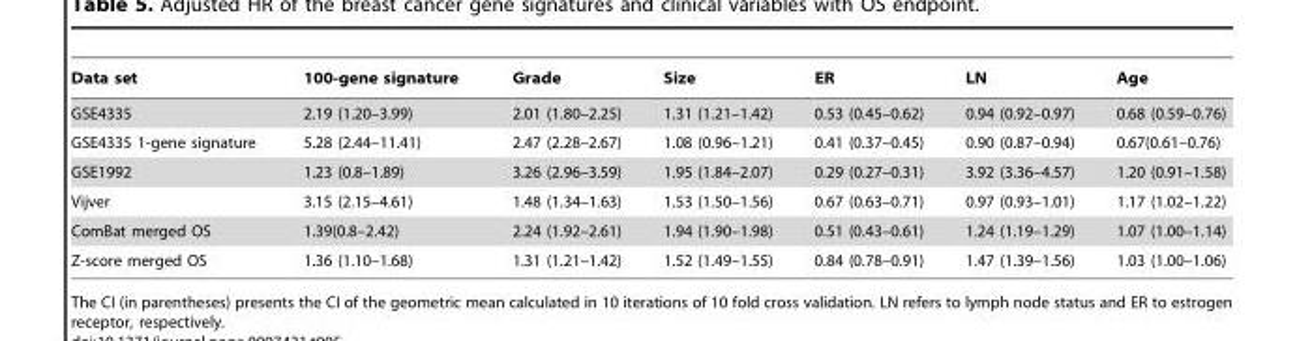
<table><thead><tr><td>Data set</td><td>100-gene signature</td><td>Grade</td><td>Size</td><td>ER</td><td>LN</td><td>Age</td></tr></thead><tbody><tr><td>GSE4335</td><td>2.19 (1.20–3.99)</td><td>2.01 (1.80–2.25)</td><td>1.31 (1.21–1.42)</td><td>0.53 (0.45–0.62)</td><td>0.94 (0.92–0.97)</td><td>0.68 (0.59–0.76)</td></tr><tr><td>GSE4335 1-gene signature</td><td>5.28 (2.44–11.41)</td><td>2.47 (2.28–2.67)</td><td>1.08 (0.96–1.21)</td><td>0.41 (0.37–0.45)</td><td>0.90 (0.87–0.94)</td><td>0.67(0.61–0.76)</td></tr><tr><td>GSE1992</td><td>1.23 (0.8–1.89)</td><td>3.26 (2.96–3.59)</td><td>1.95 (1.84–2.07)</td><td>0.29 (0.27–0.31)</td><td>3.92 (3.36–4.57)</td><td>1.20 (0.91–1.58)</td></tr><tr><td>Vijver</td><td>3.15 (2.15–4.61)</td><td>1.48 (1.34–1.63)</td><td>1.53 (1.50–1.56)</td><td>0.67 (0.63–0.71)</td><td>0.97 (0.93–1.01)</td><td>1.17 (1.02–1.22)</td></tr><tr><td>ComBat merged OS</td><td>1.39(0.8–2.42)</td><td>2.24 (1.92–2.61)</td><td>1.94 (1.90–1.98)</td><td>0.51 (0.43–0.61)</td><td>1.24 (1.19–1.29)</td><td>1.07 (1.00–1.14)</td></tr><tr><td>Z-score merged OS</td><td>1.36 (1.10–1.68)</td><td>1.31 (1.21–1.42)</td><td>1.52 (1.49–1.55)</td><td>0.84 (0.78–0.91)</td><td>1.47 (1.39–1.56)</td><td>1.03 (1.00–1.06)</td></tr></tbody></table>